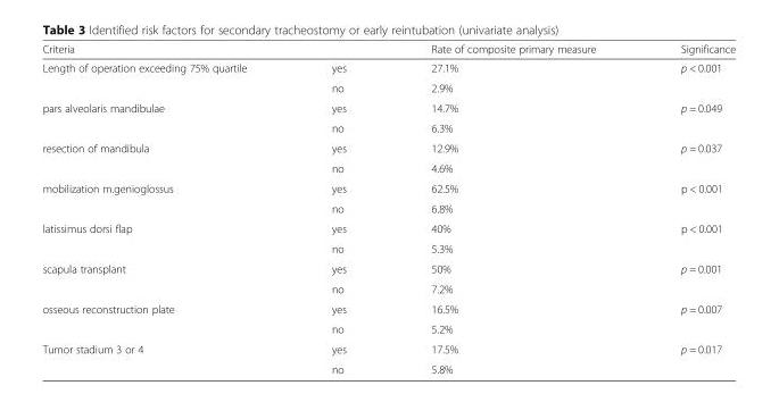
<table><thead><tr><td>Criteria</td><td></td><td>Rate of composite primary measure</td><td>Significance</td></tr></thead><tbody><tr><td rowspan="2">Length of operation exceeding 75% quartile</td><td>yes</td><td>27.1%</td><td rowspan="2">p &lt; 0.001</td></tr><tr><td>no</td><td>2.9%</td></tr><tr><td rowspan="2">pars alveolaris mandibulae</td><td>yes</td><td>14.7%</td><td rowspan="2">p = 0.049</td></tr><tr><td>no</td><td>6.3%</td></tr><tr><td rowspan="2">resection of mandibula</td><td>yes</td><td>12.9%</td><td rowspan="2">p = 0.037</td></tr><tr><td>no</td><td>4.6%</td></tr><tr><td rowspan="2">mobilization m.genioglossus</td><td>yes</td><td>62.5%</td><td rowspan="2">p &lt; 0.001</td></tr><tr><td>no</td><td>6.8%</td></tr><tr><td rowspan="2">latissimus dorsi flap</td><td>yes</td><td>40%</td><td rowspan="2">p &lt; 0.001</td></tr><tr><td>no</td><td>5.3%</td></tr><tr><td rowspan="2">scapula transplant</td><td>yes</td><td>50%</td><td rowspan="2">p = 0.001</td></tr><tr><td>no</td><td>7.2%</td></tr><tr><td rowspan="2">osseous reconstruction plate</td><td>yes</td><td>16.5%</td><td rowspan="2">p = 0.007</td></tr><tr><td>no</td><td>5.2%</td></tr><tr><td rowspan="2">Tumor stadium 3 or 4</td><td>yes</td><td>17.5%</td><td rowspan="2">p = 0.017</td></tr><tr><td>no</td><td>5.8%</td></tr></tbody></table>